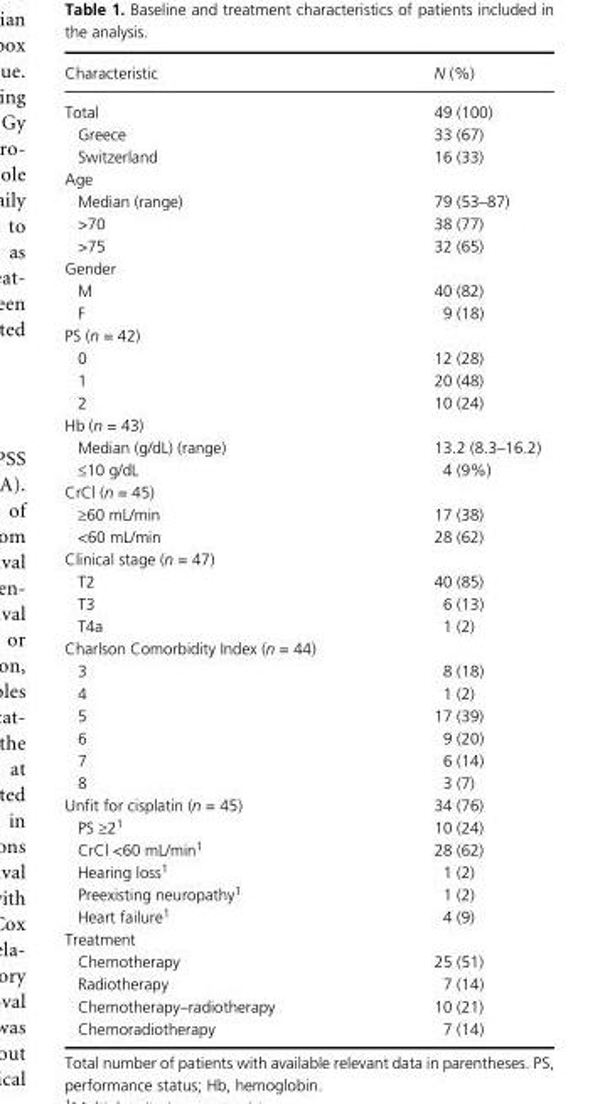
<table><thead><tr><td>Characteristic</td><td>N (%)</td></tr></thead><tbody><tr><td>Total</td><td>49 (100)</td></tr><tr><td>Greece</td><td>33 (67)</td></tr><tr><td>Switzerland</td><td>16 (33)</td></tr><tr><td colspan="2">Age</td></tr><tr><td>Median (range)</td><td>79 (53–87)</td></tr><tr><td>&gt;70</td><td>38 (77)</td></tr><tr><td>&gt;75</td><td>32 (65)</td></tr><tr><td colspan="2">Gender</td></tr><tr><td>M</td><td>40 (82)</td></tr><tr><td>F</td><td>9 (18)</td></tr><tr><td colspan="2">PS (n = 42)</td></tr><tr><td>0</td><td>12 (28)</td></tr><tr><td>1</td><td>20 (48)</td></tr><tr><td>2</td><td>10 (24)</td></tr><tr><td colspan="2">Hb (n = 43)</td></tr><tr><td>Median (g/dL) (range)</td><td>13.2 (8.3–16.2)</td></tr><tr><td>≤10 g/dL</td><td>4 (9%)</td></tr><tr><td colspan="2">CrCl (n = 45)</td></tr><tr><td>≥60 mL/min</td><td>17 (38)</td></tr><tr><td>&lt;60 mL/min</td><td>28 (62)</td></tr><tr><td colspan="2">Clinical stage (n = 47)</td></tr><tr><td>T2</td><td>40 (85)</td></tr><tr><td>T3</td><td>6 (13)</td></tr><tr><td>T4a</td><td>1 (2)</td></tr><tr><td colspan="2">Charlson Comorbidity Index (n = 44)</td></tr><tr><td>3</td><td>8 (18)</td></tr><tr><td>4</td><td>1 (2)</td></tr><tr><td>5</td><td>17 (39)</td></tr><tr><td>6</td><td>9 (20)</td></tr><tr><td>7</td><td>6 (14)</td></tr><tr><td>8</td><td>3 (7)</td></tr><tr><td>Unfit for cisplatin (n = 45)</td><td>34 (76)</td></tr><tr><td>PS ≥21</td><td>10 (24)</td></tr><tr><td>CrCl &lt;60 mL/min1</td><td>28 (62)</td></tr><tr><td>Hearing loss1</td><td>1 (2)</td></tr><tr><td>Preexisting neuropathy1</td><td>1 (2)</td></tr><tr><td>Heart failure1</td><td>4 (9)</td></tr><tr><td colspan="2">Treatment</td></tr><tr><td>Chemotherapy</td><td>25 (51)</td></tr><tr><td>Radiotherapy</td><td>7 (14)</td></tr><tr><td>Chemotherapy–radiotherapy</td><td>10 (21)</td></tr><tr><td>Chemoradiotherapy</td><td>7 (14)</td></tr></tbody></table>